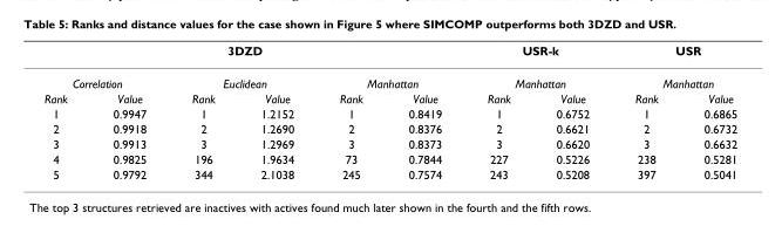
<table><thead><tr><td colspan="6">3DZD</td><td rowspan="2" colspan="2">USR-k Manhattan</td><td rowspan="2" colspan="2">USR Manhattan</td></tr><tr><td colspan="2">Correlation</td><td colspan="2">Euclidean</td><td colspan="2">Manhattan</td></tr><tr><td>Rank</td><td>Value</td><td>Rank</td><td>Value</td><td>Rank</td><td>Value</td><td>Rank</td><td>Value</td><td>Rank</td><td>Value</td></tr></thead><tbody><tr><td>1</td><td>0.9947</td><td>1</td><td>1.2152</td><td>1</td><td>0.8419</td><td>1</td><td>0.6752</td><td>1</td><td>0.6865</td></tr><tr><td>2</td><td>0.9918</td><td>2</td><td>1.2690</td><td>2</td><td>0.8376</td><td>2</td><td>0.6621</td><td>2</td><td>0.6732</td></tr><tr><td>3</td><td>0.9913</td><td>3</td><td>1.2969</td><td>3</td><td>0.8373</td><td>3</td><td>0.6620</td><td>3</td><td>0.6632</td></tr><tr><td>4</td><td>0.9825</td><td>196</td><td>1.9634</td><td>73</td><td>0.7844</td><td>227</td><td>0.5226</td><td>238</td><td>0.5281</td></tr><tr><td>5</td><td>0.9792</td><td>344</td><td>2.1038</td><td>245</td><td>0.7574</td><td>243</td><td>0.5208</td><td>397</td><td>0.5041</td></tr></tbody></table>